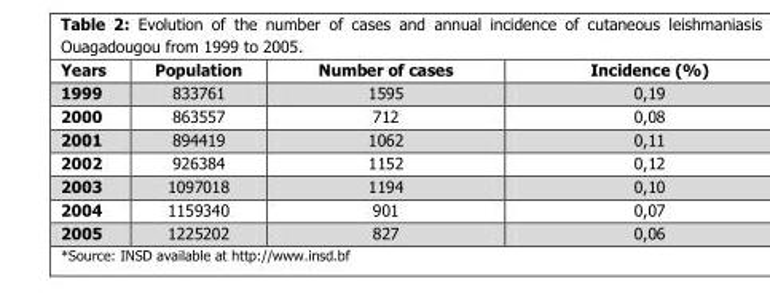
<table><thead><tr><td>Years</td><td>Population</td><td>Number of cases</td><td>Incidence (%)</td></tr></thead><tbody><tr><td>1999</td><td>833761</td><td>1595</td><td>0,19</td></tr><tr><td>2000</td><td>863557</td><td>712</td><td>0,08</td></tr><tr><td>2001</td><td>894419</td><td>1062</td><td>0,11</td></tr><tr><td>2002</td><td>926384</td><td>1152</td><td>0,12</td></tr><tr><td>2003</td><td>1097018</td><td>1194</td><td>0,10</td></tr><tr><td>2004</td><td>1159340</td><td>901</td><td>0,07</td></tr><tr><td>2005</td><td>1225202</td><td>827</td><td>0,06</td></tr></tbody></table>